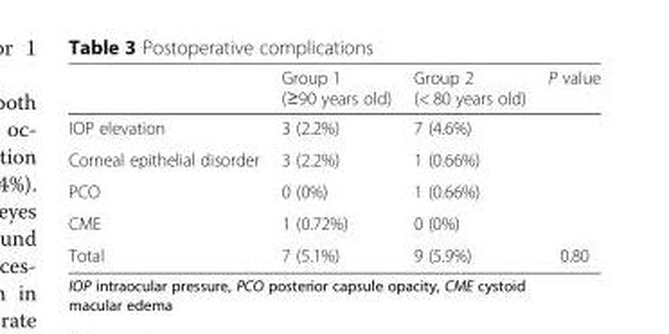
<table><thead><tr><td></td><td>Group 1 (≥90 years old)</td><td>Group 2 (&lt; 80 years old)</td><td>P value</td></tr></thead><tbody><tr><td>IOP elevation</td><td>3 (2.2%)</td><td>7 (4.6%)</td><td></td></tr><tr><td>Corneal epithelial disorder</td><td>3 (2.2%)</td><td>1 (0.66%)</td><td></td></tr><tr><td>PCO</td><td>0 (0%)</td><td>1 (0.66%)</td><td></td></tr><tr><td>CME</td><td>1 (0.72%)</td><td>0 (0%)</td><td></td></tr><tr><td>Total</td><td>7 (5.1%)</td><td>9 (5.9%)</td><td>0.80</td></tr></tbody></table>